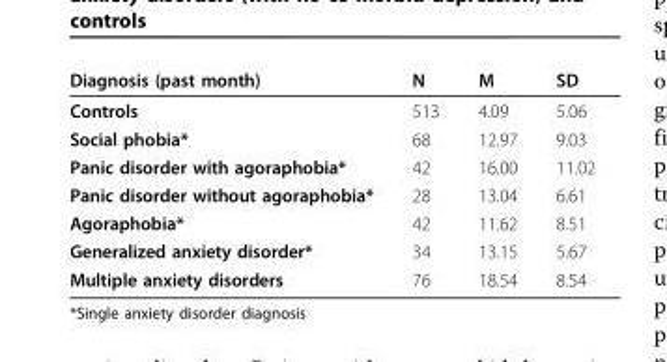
<table><thead><tr><td>Diagnosis (past month)</td><td>N</td><td>M</td><td>SD</td></tr></thead><tbody><tr><td>Controls</td><td>513</td><td>4.09</td><td>5.06</td></tr><tr><td>Social phobia*</td><td>68</td><td>12.97</td><td>9.03</td></tr><tr><td>Panic disorder with agoraphobia*</td><td>42</td><td>16.00</td><td>11.02</td></tr><tr><td>Panic disorder without agoraphobia*</td><td>28</td><td>13.04</td><td>6.61</td></tr><tr><td>Agoraphobia*</td><td>42</td><td>11.62</td><td>8.51</td></tr><tr><td>Generalized anxiety disorder*</td><td>34</td><td>13.15</td><td>5.67</td></tr><tr><td>Multiple anxiety disorders</td><td>76</td><td>18.54</td><td>8.54</td></tr></tbody></table>